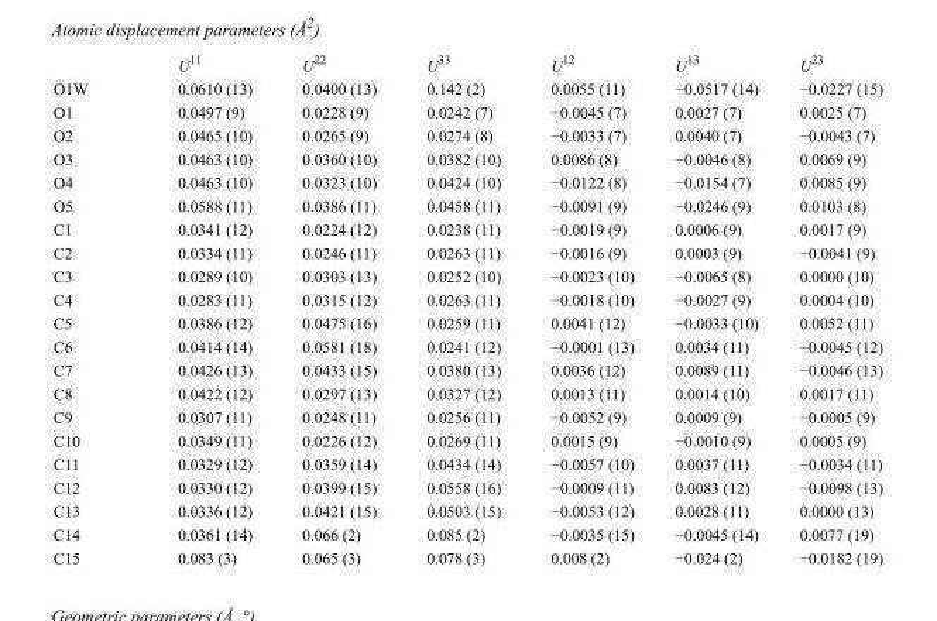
<table><thead><tr><td></td><td>U<sup>11</sup></td><td>U<sup>22</sup></td><td>U<sup>33</sup></td><td>U<sup>12</sup></td><td>U<sup>13</sup></td><td>U<sup>23</sup></td></tr></thead><tbody><tr><td>O1W</td><td>0.0610 (13)</td><td>0.0400 (13)</td><td>0.142 (2)</td><td>0.0055 (11)</td><td>−0.0517 (14)</td><td>−0.0227 (15)</td></tr><tr><td>O1</td><td>0.0497 (9)</td><td>0.0228 (9)</td><td>0.0242 (7)</td><td>−0.0045 (7)</td><td>0.0027 (7)</td><td>0.0025 (7)</td></tr><tr><td>O2</td><td>0.0465 (10)</td><td>0.0265 (9)</td><td>0.0274 (8)</td><td>−0.0033 (7)</td><td>0.0040 (7)</td><td>−0.0043 (7)</td></tr><tr><td>O3</td><td>0.0463 (10)</td><td>0.0360 (10)</td><td>0.0382 (10)</td><td>0.0086 (8)</td><td>−0.0046 (8)</td><td>0.0069 (9)</td></tr><tr><td>O4</td><td>0.0463 (10)</td><td>0.0323 (10)</td><td>0.0424 (10)</td><td>−0.0122 (8)</td><td>−0.0154 (7)</td><td>0.0085 (9)</td></tr><tr><td>O5</td><td>0.0588 (11)</td><td>0.0386 (11)</td><td>0.0458 (11)</td><td>−0.0091 (9)</td><td>−0.0246 (9)</td><td>0.0103 (8)</td></tr><tr><td>C1</td><td>0.0341 (12)</td><td>0.0224 (12)</td><td>0.0238 (11)</td><td>−0.0019 (9)</td><td>0.0006 (9)</td><td>0.0017 (9)</td></tr><tr><td>C2</td><td>0.0334 (11)</td><td>0.0246 (11)</td><td>0.0263 (11)</td><td>−0.0016 (9)</td><td>0.0003 (9)</td><td>−0.0041 (9)</td></tr><tr><td>C3</td><td>0.0289 (10)</td><td>0.0303 (13)</td><td>0.0252 (10)</td><td>−0.0023 (10)</td><td>−0.0065 (8)</td><td>0.0000 (10)</td></tr><tr><td>C4</td><td>0.0283 (11)</td><td>0.0315 (12)</td><td>0.0263 (11)</td><td>−0.0018 (10)</td><td>−0.0027 (9)</td><td>0.0004 (10)</td></tr><tr><td>C5</td><td>0.0386 (12)</td><td>0.0475 (16)</td><td>0.0259 (11)</td><td>0.0041 (12)</td><td>−0.0033 (10)</td><td>0.0052 (11)</td></tr><tr><td>C6</td><td>0.0414 (14)</td><td>0.0581 (18)</td><td>0.0241 (12)</td><td>−0.0001 (13)</td><td>0.0034 (11)</td><td>−0.0045 (12)</td></tr><tr><td>C7</td><td>0.0426 (13)</td><td>0.0433 (15)</td><td>0.0380 (13)</td><td>0.0036 (12)</td><td>0.0089 (11)</td><td>−0.0046 (13)</td></tr><tr><td>C8</td><td>0.0422 (12)</td><td>0.0297 (13)</td><td>0.0327 (12)</td><td>0.0013 (11)</td><td>0.0014 (10)</td><td>0.0017 (11)</td></tr><tr><td>C9</td><td>0.0307 (11)</td><td>0.0248 (11)</td><td>0.0256 (11)</td><td>−0.0052 (9)</td><td>0.0009 (9)</td><td>−0.0005 (9)</td></tr><tr><td>C10</td><td>0.0349 (11)</td><td>0.0226 (12)</td><td>0.0269 (11)</td><td>0.0015 (9)</td><td>−0.0010 (9)</td><td>0.0005 (9)</td></tr><tr><td>C11</td><td>0.0329 (12)</td><td>0.0359 (14)</td><td>0.0434 (14)</td><td>−0.0057 (10)</td><td>0.0037 (11)</td><td>−0.0034 (11)</td></tr><tr><td>C12</td><td>0.0330 (12)</td><td>0.0399 (15)</td><td>0.0558 (16)</td><td>−0.0009 (11)</td><td>0.0083 (12)</td><td>−0.0098 (13)</td></tr><tr><td>C13</td><td>0.0336 (12)</td><td>0.0421 (15)</td><td>0.0503 (15)</td><td>−0.0053 (12)</td><td>0.0028 (11)</td><td>0.0000 (13)</td></tr><tr><td>C14</td><td>0.0361 (14)</td><td>0.066 (2)</td><td>0.085 (2)</td><td>−0.0035 (15)</td><td>−0.0045 (14)</td><td>0.0077 (19)</td></tr><tr><td>C15</td><td>0.083 (3)</td><td>0.065 (3)</td><td>0.078 (3)</td><td>0.008 (2)</td><td>−0.024 (2)</td><td>−0.0182 (19)</td></tr></tbody></table>